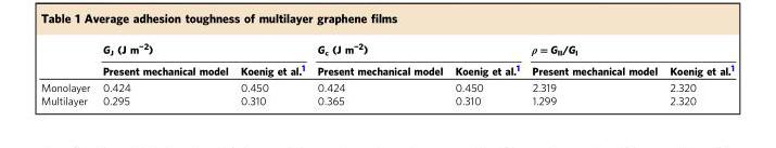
<table><thead><tr><td rowspan="2"></td><td colspan="2">G<sub>J</sub> (J m<sup>−2</sup>)</td><td colspan="2">G<sub>c</sub> (J m<sup>−2</sup>)</td><td colspan="2">ρ = G<sub>II</sub>/G<sub>I</sub></td></tr><tr><td>Present mechanical model</td><td>Koenig et al.<sup>1</sup></td><td>Present mechanical model</td><td>Koenig et al.<sup>1</sup></td><td>Present mechanical model</td><td>Koenig et al.<sup>1</sup></td></tr></thead><tbody><tr><td>Monolayer</td><td>0.424</td><td>0.450</td><td>0.424</td><td>0.450</td><td>2.319</td><td>2.320</td></tr><tr><td>Multilayer</td><td>0.295</td><td>0.310</td><td>0.365</td><td>0.310</td><td>1.299</td><td>2.320</td></tr></tbody></table>